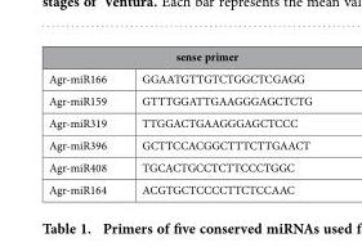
<table><thead><tr><td colspan="2">sense primer</td></tr><tr><td>Agr-miR166</td><td>GGAATGTTGTCTGGCTCGAGG</td></tr></thead><tbody><tr><td>Agr-miR159</td><td>GTTTGGATTGAAGGGAGCTCTG</td></tr><tr><td>Agr-miR319</td><td>TTGGACTGAAGGGAGCTCCC</td></tr><tr><td>Agr-miR396</td><td>GCTTCCACGGCTTTCTTGAACT</td></tr><tr><td>Agr-miR408</td><td>TGCACTGCCTCTTCCCTGGC</td></tr><tr><td>Agr-miR164</td><td>ACGTGCTCCCCTTCTCCAAC</td></tr></tbody></table>